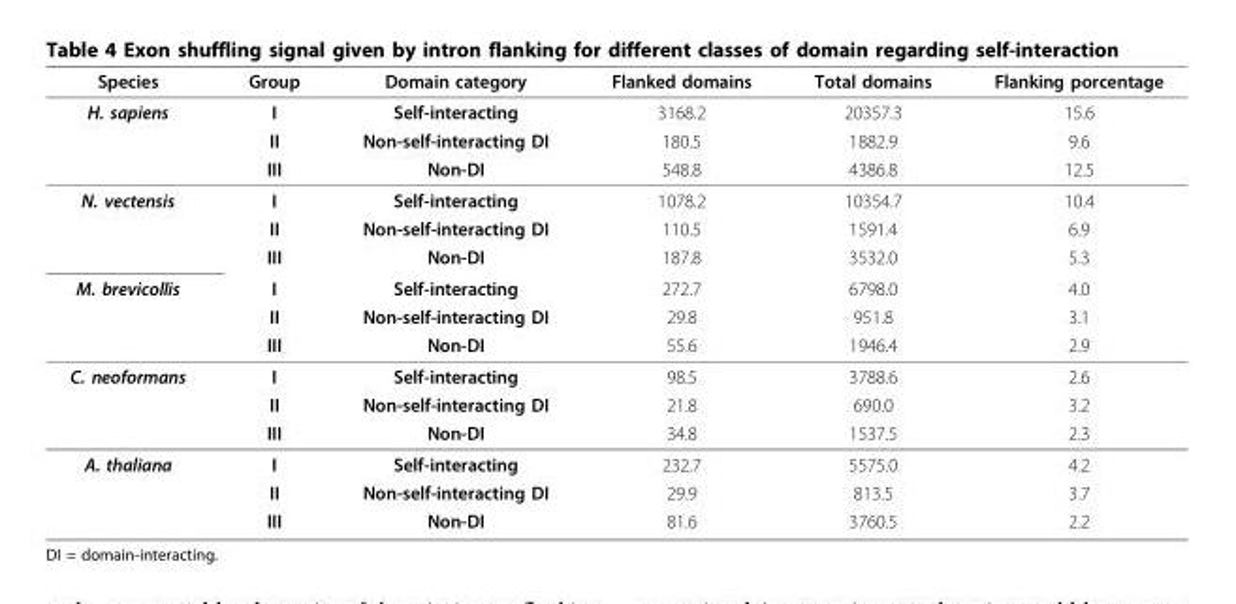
<table><thead><tr><td>Species</td><td>Group</td><td>Domain category</td><td>Flanked domains</td><td>Total domains</td><td>Flanking porcentage</td></tr></thead><tbody><tr><td rowspan="3">H. sapiens</td><td>I</td><td>Self-interacting</td><td>3168.2</td><td>20357.3</td><td>15.6</td></tr><tr><td>II</td><td>Non-self-interacting DI</td><td>180.5</td><td>1882.9</td><td>9.6</td></tr><tr><td>III</td><td>Non-DI</td><td>548.8</td><td>4386.8</td><td>12.5</td></tr><tr><td rowspan="3">N. vectensis</td><td>I</td><td>Self-interacting</td><td>1078.2</td><td>10354.7</td><td>10.4</td></tr><tr><td>II</td><td>Non-self-interacting DI</td><td>110.5</td><td>1591.4</td><td>6.9</td></tr><tr><td>III</td><td>Non-DI</td><td>187.8</td><td>3532.0</td><td>5.3</td></tr><tr><td rowspan="3">M. brevicollis</td><td>I</td><td>Self-interacting</td><td>272.7</td><td>6798.0</td><td>4.0</td></tr><tr><td>II</td><td>Non-self-interacting DI</td><td>29.8</td><td>951.8</td><td>3.1</td></tr><tr><td>III</td><td>Non-DI</td><td>55.6</td><td>1946.4</td><td>2.9</td></tr><tr><td rowspan="3">C. neoformans</td><td>I</td><td>Self-interacting</td><td>98.5</td><td>3788.6</td><td>2.6</td></tr><tr><td>II</td><td>Non-self-interacting DI</td><td>21.8</td><td>690.0</td><td>3.2</td></tr><tr><td>III</td><td>Non-DI</td><td>34.8</td><td>1537.5</td><td>2.3</td></tr><tr><td rowspan="3">A. thaliana</td><td>I</td><td>Self-interacting</td><td>232.7</td><td>5575.0</td><td>4.2</td></tr><tr><td>II</td><td>Non-self-interacting DI</td><td>29.9</td><td>813.5</td><td>3.7</td></tr><tr><td>III</td><td>Non-DI</td><td>81.6</td><td>3760.5</td><td>2.2</td></tr></tbody></table>